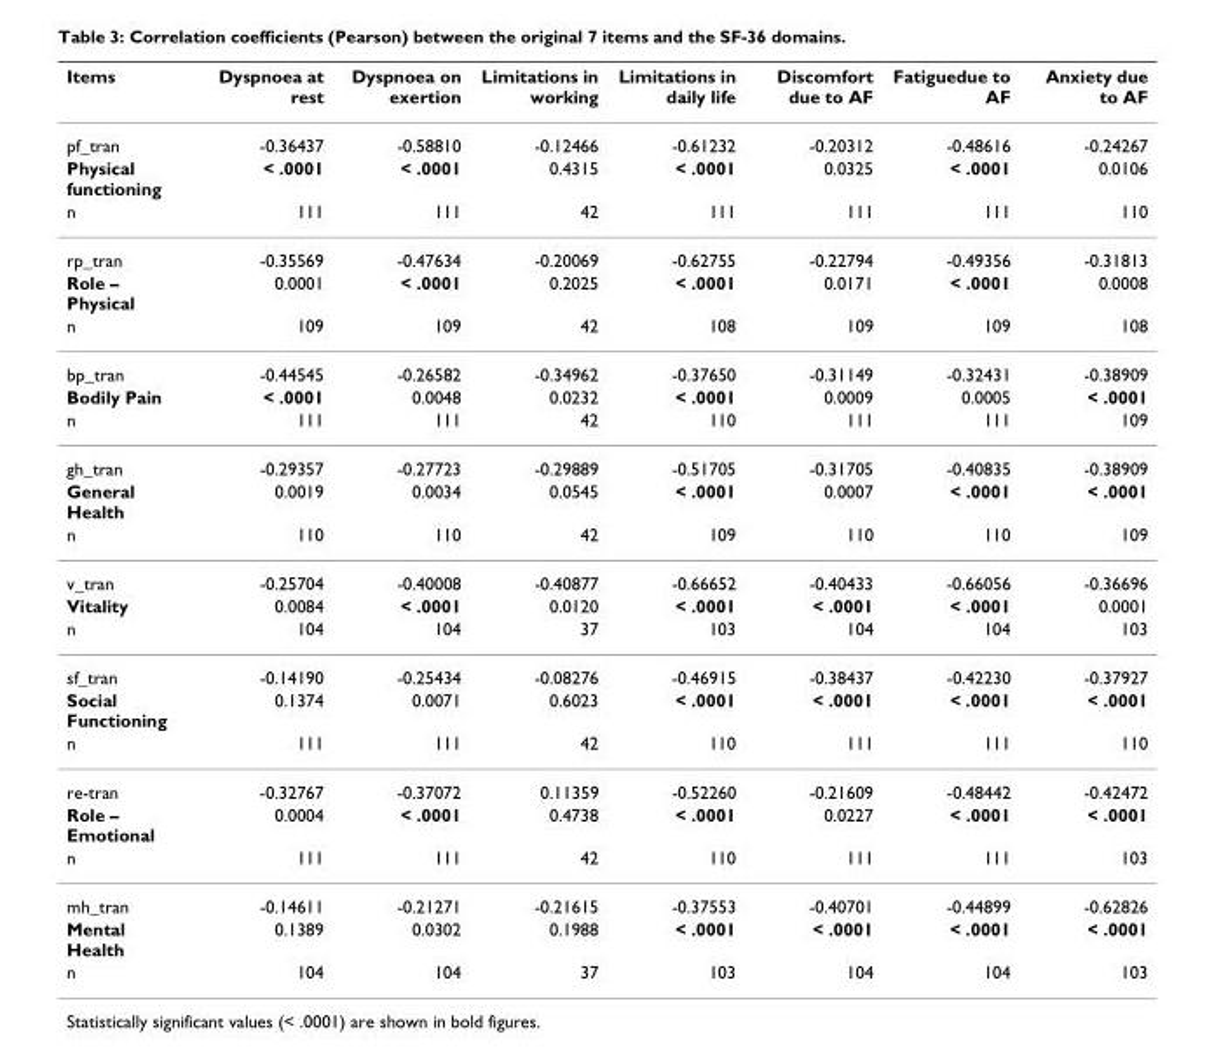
<table><thead><tr><td>Items</td><td>Dyspnoea at rest</td><td>Dyspnoea on exertion</td><td>Limitations in working</td><td>Limitations in daily life</td><td>Discomfort due to AF</td><td>Fatiguedue to AF</td><td>Anxiety due to AF</td></tr></thead><tbody><tr><td>pf_tran</td><td>-0.36437</td><td>-0.58810</td><td>-0.12466</td><td>-0.61232</td><td>-0.20312</td><td>-0.48616</td><td>-0.24267</td></tr><tr><td>Physical functioning</td><td>&lt; .0001</td><td>&lt; .0001</td><td>0.4315</td><td>&lt; .0001</td><td>0.0325</td><td>&lt; .0001</td><td>0.0106</td></tr><tr><td>n</td><td>111</td><td>111</td><td>42</td><td>111</td><td>111</td><td>111</td><td>110</td></tr><tr><td>rp_tran</td><td>-0.35569</td><td>-0.47634</td><td>-0.20069</td><td>-0.62755</td><td>-0.22794</td><td>-0.49356</td><td>-0.31813</td></tr><tr><td>Role – Physical</td><td>0.0001</td><td>&lt; .0001</td><td>0.2025</td><td>&lt; .0001</td><td>0.0171</td><td>&lt; .0001</td><td>0.0008</td></tr><tr><td>n</td><td>109</td><td>109</td><td>42</td><td>108</td><td>109</td><td>109</td><td>108</td></tr><tr><td>bp_tran</td><td>-0.44545</td><td>-0.26582</td><td>-0.34962</td><td>-0.37650</td><td>-0.31149</td><td>-0.32431</td><td>-0.38909</td></tr><tr><td>Bodily Pain</td><td>&lt; .0001</td><td>0.0048</td><td>0.0232</td><td>&lt; .0001</td><td>0.0009</td><td>0.0005</td><td>&lt; .0001</td></tr><tr><td>n</td><td>111</td><td>111</td><td>42</td><td>110</td><td>111</td><td>111</td><td>109</td></tr><tr><td>gh_tran</td><td>-0.29357</td><td>-0.27723</td><td>-0.29889</td><td>-0.51705</td><td>-0.31705</td><td>-0.40835</td><td>-0.38909</td></tr><tr><td>General Health</td><td>0.0019</td><td>0.0034</td><td>0.0545</td><td>&lt; .0001</td><td>0.0007</td><td>&lt; .0001</td><td>&lt; .0001</td></tr><tr><td>n</td><td>110</td><td>110</td><td>42</td><td>109</td><td>110</td><td>110</td><td>109</td></tr><tr><td>v_tran</td><td>-0.25704</td><td>-0.40008</td><td>-0.40877</td><td>-0.66652</td><td>-0.40433</td><td>-0.66056</td><td>-0.36696</td></tr><tr><td>Vitality</td><td>0.0084</td><td>&lt; .0001</td><td>0.0120</td><td>&lt; .0001</td><td>&lt; .0001</td><td>&lt; .0001</td><td>0.0001</td></tr><tr><td>n</td><td>104</td><td>104</td><td>37</td><td>103</td><td>104</td><td>104</td><td>103</td></tr><tr><td>sf_tran</td><td>-0.14190</td><td>-0.25434</td><td>-0.08276</td><td>-0.46915</td><td>-0.38437</td><td>-0.42230</td><td>-0.37927</td></tr><tr><td>Social Functioning</td><td>0.1374</td><td>0.0071</td><td>0.6023</td><td>&lt; .0001</td><td>&lt; .0001</td><td>&lt; .0001</td><td>&lt; .0001</td></tr><tr><td>n</td><td>111</td><td>111</td><td>42</td><td>110</td><td>111</td><td>111</td><td>110</td></tr><tr><td>re-tran</td><td>-0.32767</td><td>-0.37072</td><td>0.11359</td><td>-0.52260</td><td>-0.21609</td><td>-0.48442</td><td>-0.42472</td></tr><tr><td>Role – Emotional</td><td>0.0004</td><td>&lt; .0001</td><td>0.4738</td><td>&lt; .0001</td><td>0.0227</td><td>&lt; .0001</td><td>&lt; .0001</td></tr><tr><td>n</td><td>111</td><td>111</td><td>42</td><td>110</td><td>111</td><td>111</td><td>103</td></tr><tr><td>mh_tran</td><td>-0.14611</td><td>-0.21271</td><td>-0.21615</td><td>-0.37553</td><td>-0.40701</td><td>-0.44899</td><td>-0.62826</td></tr><tr><td>Mental Health</td><td>0.1389</td><td>0.0302</td><td>0.1988</td><td>&lt; .0001</td><td>&lt; .0001</td><td>&lt; .0001</td><td>&lt; .0001</td></tr><tr><td>n</td><td>104</td><td>104</td><td>37</td><td>103</td><td>104</td><td>104</td><td>103</td></tr></tbody></table>